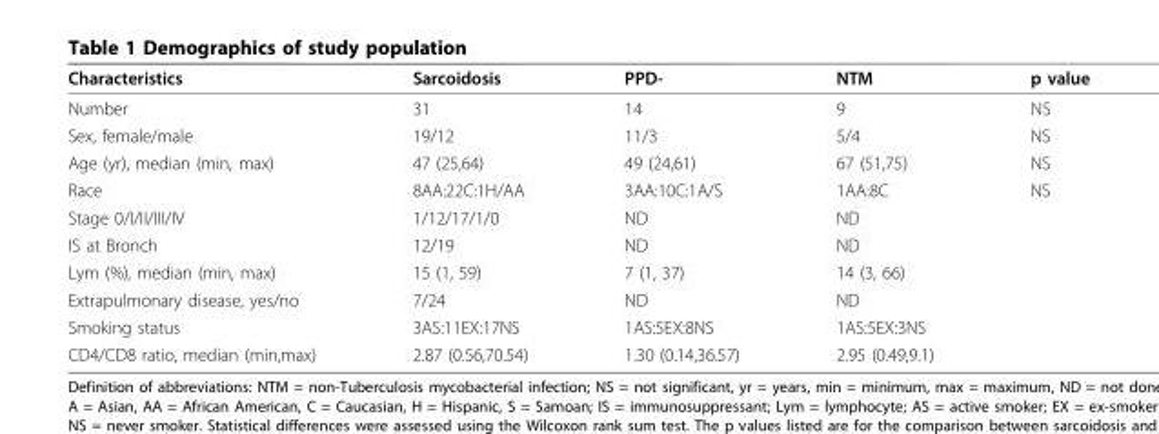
<table><thead><tr><td>Characteristics</td><td>Sarcoidosis</td><td>PPD-</td><td>NTM</td><td>p value</td></tr></thead><tbody><tr><td>Number</td><td>31</td><td>14</td><td>9</td><td>NS</td></tr><tr><td>Sex, female/male</td><td>19/12</td><td>11/3</td><td>5/4</td><td>NS</td></tr><tr><td>Age (yr), median (min, max)</td><td>47 (25,64)</td><td>49 (24,61)</td><td>67 (51,75)</td><td>NS</td></tr><tr><td>Race</td><td>8AA:22C:1H/AA</td><td>3AA:10C:1A/S</td><td>1AA:8C</td><td>NS</td></tr><tr><td>Stage 0/I/II/III/IV</td><td>1/12/17/1/0</td><td>ND</td><td>ND</td><td></td></tr><tr><td>IS at Bronch</td><td>12/19</td><td>ND</td><td>ND</td><td></td></tr><tr><td>Lym (%), median (min, max)</td><td>15 (1, 59)</td><td>7 (1, 37)</td><td>14 (3, 66)</td><td></td></tr><tr><td>Extrapulmonary disease, yes/no</td><td>7/24</td><td>ND</td><td>ND</td><td></td></tr><tr><td>Smoking status</td><td>3AS:11EX:17NS</td><td>1AS:5EX:8NS</td><td>1AS:5EX:3NS</td><td></td></tr><tr><td>CD4/CD8 ratio, median (min,max)</td><td>2.87 (0.56,70.54)</td><td>1.30 (0.14,36.57)</td><td>2.95 (0.49,9.1)</td><td></td></tr></tbody></table>